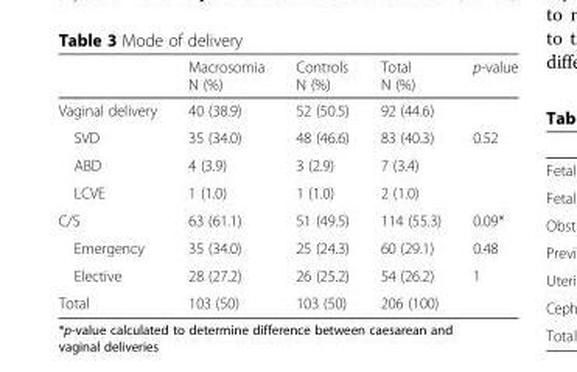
<table><thead><tr><td></td><td>Macrosomia N (%)</td><td>Controls N (%)</td><td>Total N (%)</td><td>p-value</td></tr></thead><tbody><tr><td>Vaginal delivery</td><td>40 (38.9)</td><td>52 (50.5)</td><td>92 (44.6)</td><td></td></tr><tr><td>SVD</td><td>35 (34.0)</td><td>48 (46.6)</td><td>83 (40.3)</td><td rowspan="3">0.52</td></tr><tr><td>ABD</td><td>4 (3.9)</td><td>3 (2.9)</td><td>7 (3.4)</td></tr><tr><td>LCVE</td><td>1 (1.0)</td><td>1 (1.0)</td><td>2 (1.0)</td></tr><tr><td>C/S</td><td>63 (61.1)</td><td>51 (49.5)</td><td>114 (55.3)</td><td>0.09*</td></tr><tr><td>Emergency</td><td>35 (34.0)</td><td>25 (24.3)</td><td>60 (29.1)</td><td>0.48</td></tr><tr><td>Elective</td><td>28 (27.2)</td><td>26 (25.2)</td><td>54 (26.2)</td><td>1</td></tr><tr><td>Total</td><td>103 (50)</td><td>103 (50)</td><td>206 (100)</td><td></td></tr></tbody></table>